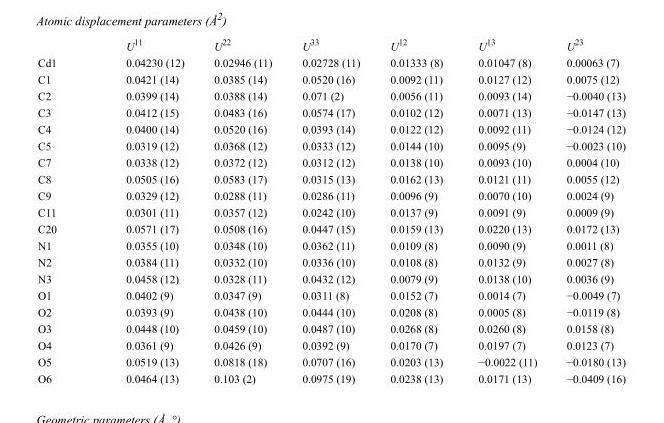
<table><thead><tr><td></td><td>U<sup>11</sup></td><td>U<sup>22</sup></td><td>U<sup>33</sup></td><td>U<sup>12</sup></td><td>U<sup>13</sup></td><td>U<sup>23</sup></td></tr></thead><tbody><tr><td>Cd1</td><td>0.04230 (12)</td><td>0.02946 (11)</td><td>0.02728 (11)</td><td>0.01333 (8)</td><td>0.01047 (8)</td><td>0.00063 (7)</td></tr><tr><td>C1</td><td>0.0421 (14)</td><td>0.0385 (14)</td><td>0.0520 (16)</td><td>0.0092 (11)</td><td>0.0127 (12)</td><td>0.0075 (12)</td></tr><tr><td>C2</td><td>0.0399 (14)</td><td>0.0388 (14)</td><td>0.071 (2)</td><td>0.0056 (11)</td><td>0.0093 (14)</td><td>−0.0040 (13)</td></tr><tr><td>C3</td><td>0.0412 (15)</td><td>0.0483 (16)</td><td>0.0574 (17)</td><td>0.0102 (12)</td><td>0.0071 (13)</td><td>−0.0147 (13)</td></tr><tr><td>C4</td><td>0.0400 (14)</td><td>0.0520 (16)</td><td>0.0393 (14)</td><td>0.0122 (12)</td><td>0.0092 (11)</td><td>−0.0124 (12)</td></tr><tr><td>C5</td><td>0.0319 (12)</td><td>0.0368 (12)</td><td>0.0333 (12)</td><td>0.0144 (10)</td><td>0.0095 (9)</td><td>−0.0023 (10)</td></tr><tr><td>C7</td><td>0.0338 (12)</td><td>0.0372 (12)</td><td>0.0312 (12)</td><td>0.0138 (10)</td><td>0.0093 (10)</td><td>0.0004 (10)</td></tr><tr><td>C8</td><td>0.0505 (16)</td><td>0.0583 (17)</td><td>0.0315 (13)</td><td>0.0162 (13)</td><td>0.0121 (11)</td><td>0.0055 (12)</td></tr><tr><td>C9</td><td>0.0329 (12)</td><td>0.0288 (11)</td><td>0.0286 (11)</td><td>0.0096 (9)</td><td>0.0070 (10)</td><td>0.0024 (9)</td></tr><tr><td>C11</td><td>0.0301 (11)</td><td>0.0357 (12)</td><td>0.0242 (10)</td><td>0.0137 (9)</td><td>0.0091 (9)</td><td>0.0009 (9)</td></tr><tr><td>C20</td><td>0.0571 (17)</td><td>0.0508 (16)</td><td>0.0447 (15)</td><td>0.0159 (13)</td><td>0.0220 (13)</td><td>0.0172 (13)</td></tr><tr><td>N1</td><td>0.0355 (10)</td><td>0.0348 (10)</td><td>0.0362 (11)</td><td>0.0109 (8)</td><td>0.0090 (9)</td><td>0.0011 (8)</td></tr><tr><td>N2</td><td>0.0384 (11)</td><td>0.0332 (10)</td><td>0.0336 (10)</td><td>0.0108 (8)</td><td>0.0132 (9)</td><td>0.0027 (8)</td></tr><tr><td>N3</td><td>0.0458 (12)</td><td>0.0328 (11)</td><td>0.0432 (12)</td><td>0.0079 (9)</td><td>0.0138 (10)</td><td>0.0036 (9)</td></tr><tr><td>O1</td><td>0.0402 (9)</td><td>0.0347 (9)</td><td>0.0311 (8)</td><td>0.0152 (7)</td><td>0.0014 (7)</td><td>−0.0049 (7)</td></tr><tr><td>O2</td><td>0.0393 (9)</td><td>0.0438 (10)</td><td>0.0444 (10)</td><td>0.0208 (8)</td><td>0.0005 (8)</td><td>−0.0119 (8)</td></tr><tr><td>O3</td><td>0.0448 (10)</td><td>0.0459 (10)</td><td>0.0487 (10)</td><td>0.0268 (8)</td><td>0.0260 (8)</td><td>0.0158 (8)</td></tr><tr><td>O4</td><td>0.0361 (9)</td><td>0.0426 (9)</td><td>0.0392 (9)</td><td>0.0170 (7)</td><td>0.0197 (7)</td><td>0.0123 (7)</td></tr><tr><td>O5</td><td>0.0519 (13)</td><td>0.0818 (18)</td><td>0.0707 (16)</td><td>0.0203 (13)</td><td>−0.0022 (11)</td><td>−0.0180 (13)</td></tr><tr><td>O6</td><td>0.0464 (13)</td><td>0.103 (2)</td><td>0.0975 (19)</td><td>0.0238 (13)</td><td>0.0171 (13)</td><td>−0.0409 (16)</td></tr></tbody></table>